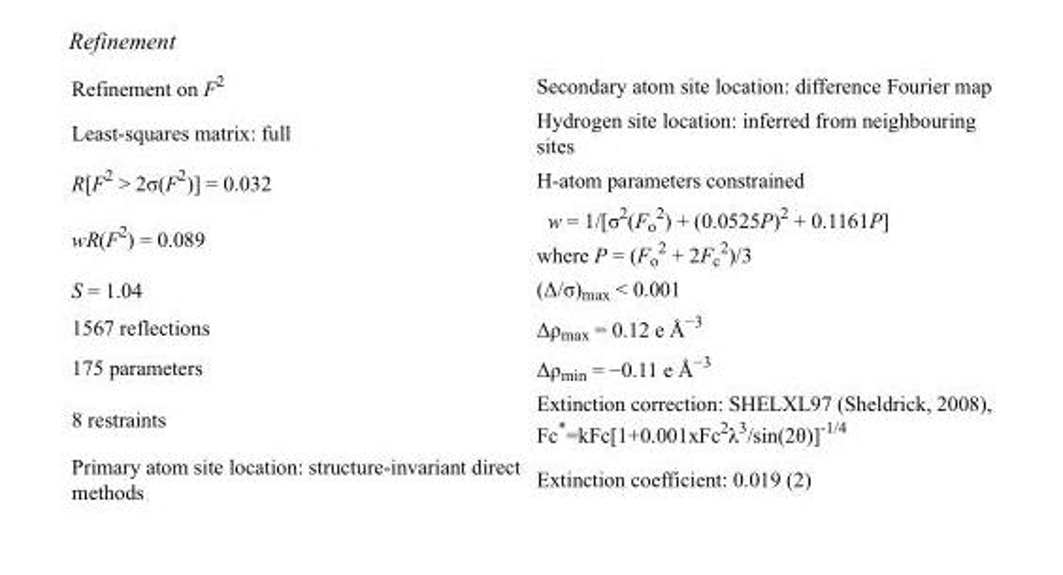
<table><tbody><tr><td>Refinement on F<sup>2</sup></td><td>Secondary atom site location: difference Fourier map</td></tr><tr><td>Least-squares matrix: full</td><td>Hydrogen site location: inferred from neighbouring sites</td></tr><tr><td>R[F<sup>2</sup> &gt; 2σ(F<sup>2</sup>)] = 0.032</td><td>H-atom parameters constrained</td></tr><tr><td>wR(F<sup>2</sup>) = 0.089</td><td>w = 1/[σ<sup>2</sup>(F<sub>o</sub> <sup>2</sup>) + (0.0525P)<sup>2</sup> + 0.1161P] where P = (F<sub>o</sub> <sup>2</sup> + 2F<sub>c</sub> <sup>2</sup>)/3</td></tr><tr><td>S = 1.04</td><td>(Δ/σ)<sub>max</sub> &lt; 0.001</td></tr><tr><td>1567 reflections</td><td>Δρ<sub>max</sub> = 0.12 e Å<sup>−3</sup></td></tr><tr><td>175 parameters</td><td>Δρ<sub>min</sub> = −0.11 e Å<sup>−3</sup></td></tr><tr><td>8 restraints</td><td>Extinction correction: SHELXL97 (Sheldrick, 2008), Fc*=kFc[1+0.001xFc<sup>2</sup>λ<sup>3</sup>/sin(2θ)]<sup>-1/4</sup></td></tr><tr><td>Primary atom site location: structure-invariant direct methods</td><td>Extinction coefficient: 0.019 (2)</td></tr></tbody></table>